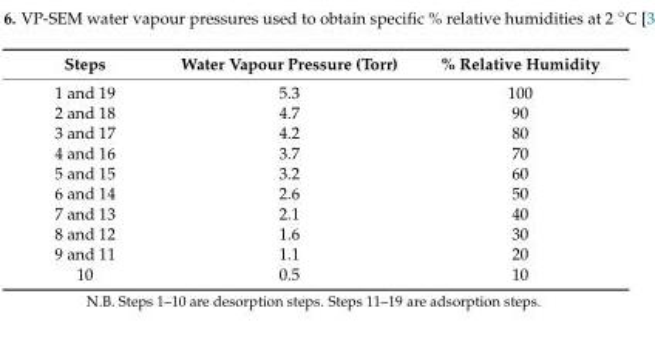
<table><thead><tr><td>Steps</td><td>Water Vapour Pressure (Torr)</td><td>% Relative Humidity</td></tr></thead><tbody><tr><td>1 and 19</td><td>5.3</td><td>100</td></tr><tr><td>2 and 18</td><td>4.7</td><td>90</td></tr><tr><td>3 and 17</td><td>4.2</td><td>80</td></tr><tr><td>4 and 16</td><td>3.7</td><td>70</td></tr><tr><td>5 and 15</td><td>3.2</td><td>60</td></tr><tr><td>6 and 14</td><td>2.6</td><td>50</td></tr><tr><td>7 and 13</td><td>2.1</td><td>40</td></tr><tr><td>8 and 12</td><td>1.6</td><td>30</td></tr><tr><td>9 and 11</td><td>1.1</td><td>20</td></tr><tr><td>10</td><td>0.5</td><td>10</td></tr></tbody></table>